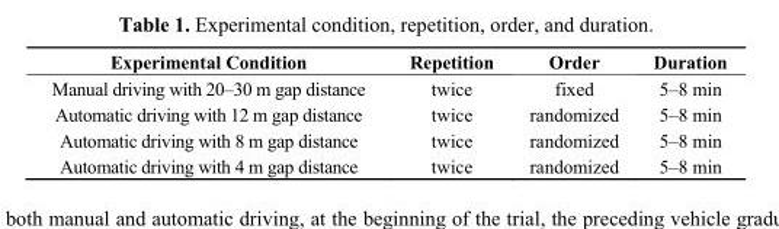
<table><thead><tr><td>Experimental Condition</td><td>Repetition</td><td>Order</td><td>Duration</td></tr></thead><tbody><tr><td>Manual driving with 20–30 m gap distance</td><td>twice</td><td>fixed</td><td>5–8 min</td></tr><tr><td>Automatic driving with 12 m gap distance</td><td>twice</td><td>randomized</td><td>5–8 min</td></tr><tr><td>Automatic driving with 8 m gap distance</td><td>twice</td><td>randomized</td><td>5–8 min</td></tr><tr><td>Automatic driving with 4 m gap distance</td><td>twice</td><td>randomized</td><td>5–8 min</td></tr></tbody></table>